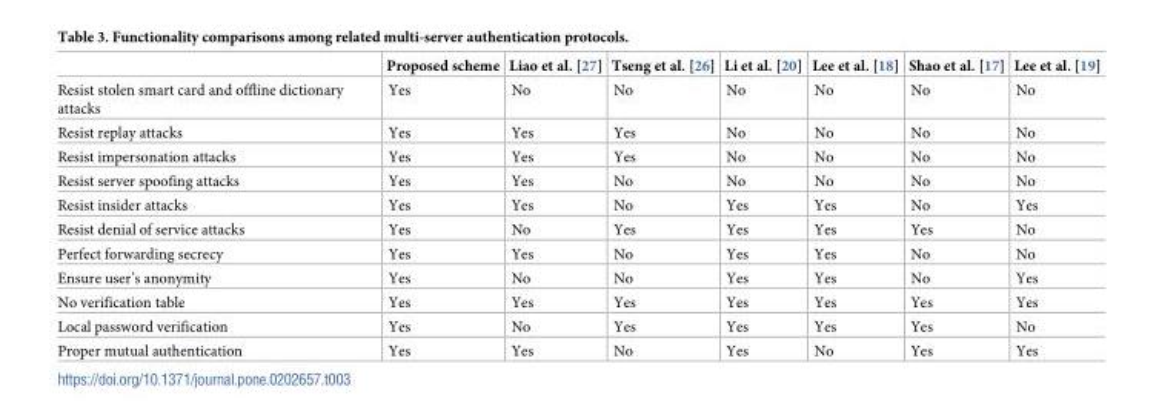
<table><thead><tr><td></td><td>Proposed scheme</td><td>Liao et al. [27]</td><td>Tseng et al. [26]</td><td>Li et al. [20]</td><td>Lee et al. [18]</td><td>Shao et al. [17]</td><td>Lee et al. [19]</td></tr></thead><tbody><tr><td>Resist stolen smart card and offline dictionary attacks</td><td>Yes</td><td>No</td><td>No</td><td>No</td><td>No</td><td>No</td><td>No</td></tr><tr><td>Resist replay attacks</td><td>Yes</td><td>Yes</td><td>Yes</td><td>No</td><td>No</td><td>No</td><td>No</td></tr><tr><td>Resist impersonation attacks</td><td>Yes</td><td>Yes</td><td>Yes</td><td>No</td><td>No</td><td>No</td><td>No</td></tr><tr><td>Resist server spoofing attacks</td><td>Yes</td><td>Yes</td><td>No</td><td>No</td><td>No</td><td>No</td><td>No</td></tr><tr><td>Resist insider attacks</td><td>Yes</td><td>Yes</td><td>No</td><td>Yes</td><td>Yes</td><td>No</td><td>Yes</td></tr><tr><td>Resist denial of service attacks</td><td>Yes</td><td>No</td><td>Yes</td><td>Yes</td><td>Yes</td><td>Yes</td><td>No</td></tr><tr><td>Perfect forwarding secrecy</td><td>Yes</td><td>Yes</td><td>No</td><td>Yes</td><td>Yes</td><td>No</td><td>No</td></tr><tr><td>Ensure user’s anonymity</td><td>Yes</td><td>No</td><td>No</td><td>Yes</td><td>Yes</td><td>No</td><td>Yes</td></tr><tr><td>No verification table</td><td>Yes</td><td>Yes</td><td>Yes</td><td>Yes</td><td>Yes</td><td>Yes</td><td>Yes</td></tr><tr><td>Local password verification</td><td>Yes</td><td>No</td><td>Yes</td><td>Yes</td><td>Yes</td><td>Yes</td><td>No</td></tr><tr><td>Proper mutual authentication</td><td>Yes</td><td>Yes</td><td>No</td><td>Yes</td><td>No</td><td>Yes</td><td>Yes</td></tr></tbody></table>